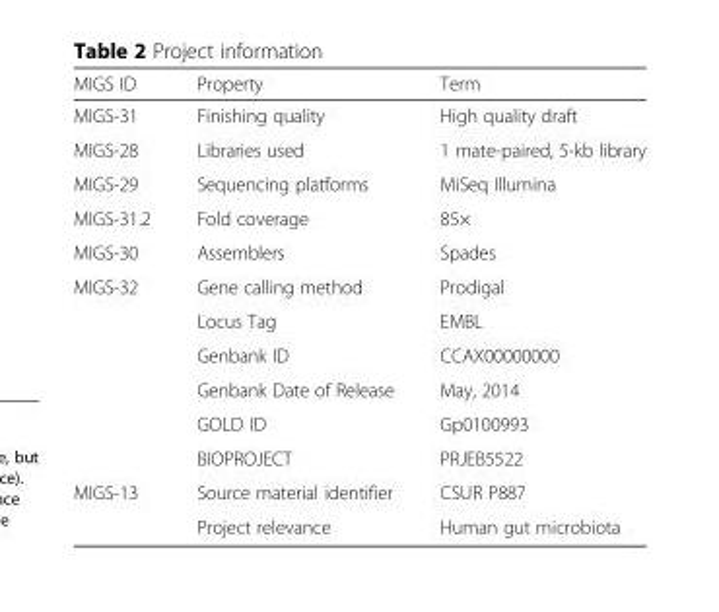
<table><thead><tr><td>MIGS ID</td><td>Property</td><td>Term</td></tr></thead><tbody><tr><td>MIGS-31</td><td>Finishing quality</td><td>High quality draft</td></tr><tr><td>MIGS-28</td><td>Libraries used</td><td>1 mate-paired, 5-kb library</td></tr><tr><td>MIGS-29</td><td>Sequencing platforms</td><td>MiSeq Illumina</td></tr><tr><td>MIGS-31.2</td><td>Fold coverage</td><td>85×</td></tr><tr><td>MIGS-30</td><td>Assemblers</td><td>Spades</td></tr><tr><td rowspan="6">MIGS-32</td><td>Gene calling method</td><td>Prodigal</td></tr><tr><td>Locus Tag</td><td>EMBL</td></tr><tr><td>Genbank ID</td><td>CCAX00000000</td></tr><tr><td>Genbank Date of Release</td><td>May, 2014</td></tr><tr><td>GOLD ID</td><td>Gp0100993</td></tr><tr><td>BIOPROJECT</td><td>PRJEB5522</td></tr><tr><td rowspan="2">MIGS-13</td><td>Source material identifier</td><td>CSUR P887</td></tr><tr><td>Project relevance</td><td>Human gut microbiota</td></tr></tbody></table>